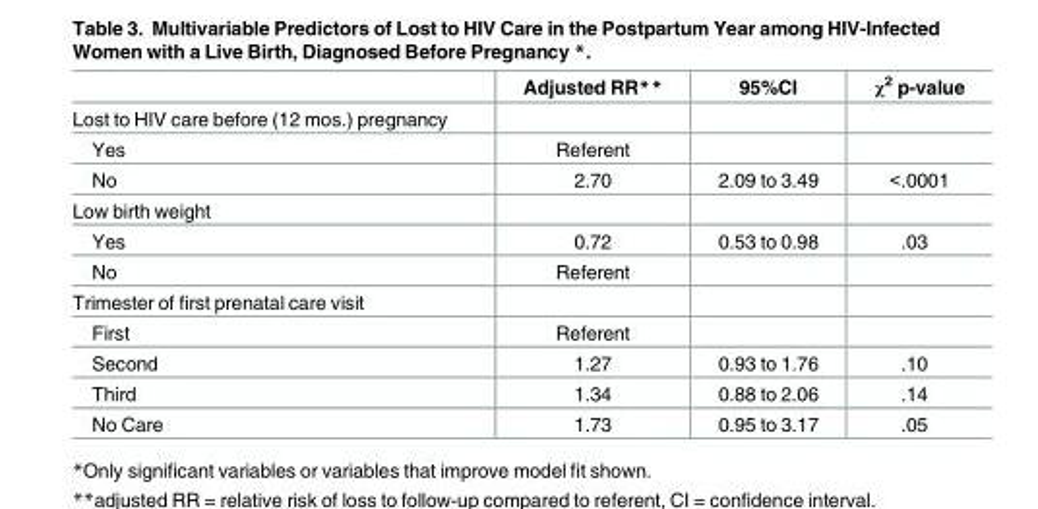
<table><thead><tr><td></td><td>Adjusted RR**</td><td>95%CI</td><td>χ<sup>2</sup> p-value</td></tr></thead><tbody><tr><td colspan="4">Lost to HIV care before (12 mos.) pregnancy</td></tr><tr><td>Yes</td><td>Referent</td><td></td><td></td></tr><tr><td>No</td><td>2.70</td><td>2.09 to 3.49</td><td>&lt;.0001</td></tr><tr><td colspan="4">Low birth weight</td></tr><tr><td>Yes</td><td>0.72</td><td>0.53 to 0.98</td><td>.03</td></tr><tr><td>No</td><td>Referent</td><td></td><td></td></tr><tr><td colspan="4">Trimester of first prenatal care visit</td></tr><tr><td>First</td><td>Referent</td><td></td><td></td></tr><tr><td>Second</td><td>1.27</td><td>0.93 to 1.76</td><td>.10</td></tr><tr><td>Third</td><td>1.34</td><td>0.88 to 2.06</td><td>.14</td></tr><tr><td>No Care</td><td>1.73</td><td>0.95 to 3.17</td><td>.05</td></tr></tbody></table>